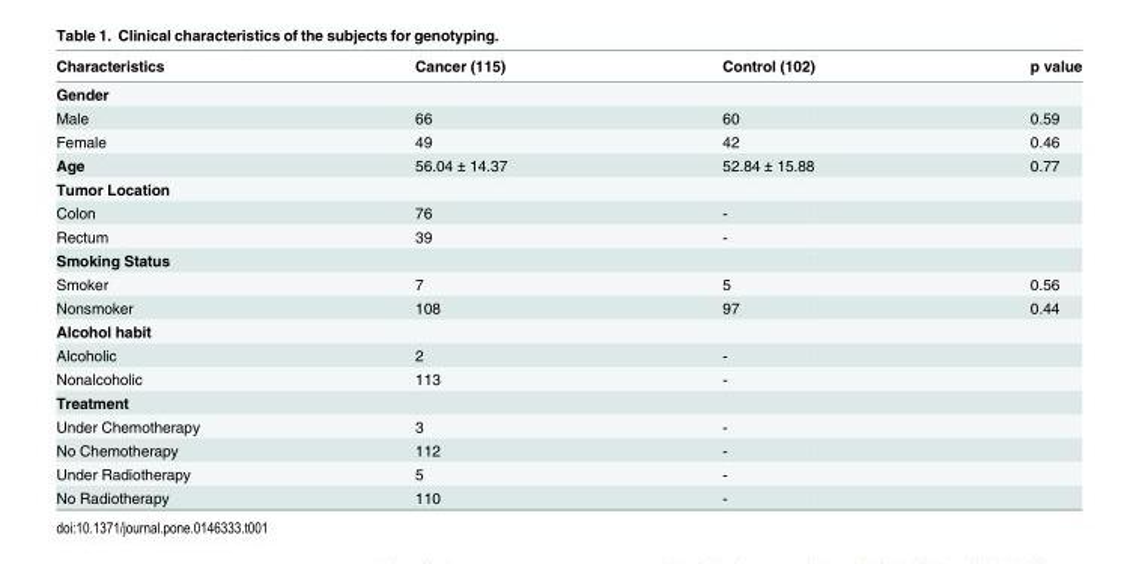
<table><thead><tr><td>Characteristics</td><td>Cancer (115)</td><td>Control (102)</td><td>p value</td></tr></thead><tbody><tr><td colspan="4">Gender</td></tr><tr><td>Male</td><td>66</td><td>60</td><td>0.59</td></tr><tr><td>Female</td><td>49</td><td>42</td><td>0.46</td></tr><tr><td>Age</td><td>56.04 ± 14.37</td><td>52.84 ± 15.88</td><td>0.77</td></tr><tr><td colspan="4">Tumor Location</td></tr><tr><td>Colon</td><td>76</td><td>-</td><td></td></tr><tr><td>Rectum</td><td>39</td><td>-</td><td></td></tr><tr><td colspan="4">Smoking Status</td></tr><tr><td>Smoker</td><td>7</td><td>5</td><td>0.56</td></tr><tr><td>Nonsmoker</td><td>108</td><td>97</td><td>0.44</td></tr><tr><td colspan="4">Alcohol habit</td></tr><tr><td>Alcoholic</td><td>2</td><td>-</td><td></td></tr><tr><td>Nonalcoholic</td><td>113</td><td>-</td><td></td></tr><tr><td colspan="4">Treatment</td></tr><tr><td>Under Chemotherapy</td><td>3</td><td>-</td><td></td></tr><tr><td>No Chemotherapy</td><td>112</td><td>-</td><td></td></tr><tr><td>Under Radiotherapy</td><td>5</td><td>-</td><td></td></tr><tr><td>No Radiotherapy</td><td>110</td><td>-</td><td></td></tr></tbody></table>